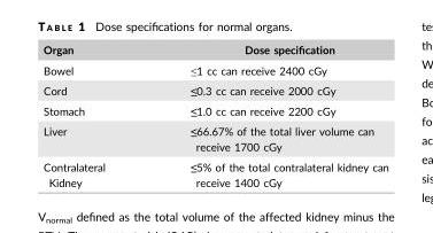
<table><thead><tr><td>Organ</td><td>Dose specification</td></tr></thead><tbody><tr><td>Bowel</td><td>≤1 cc can receive 2400 cGy</td></tr><tr><td>Cord</td><td>≤0.3 cc can receive 2000 cGy</td></tr><tr><td>Stomach</td><td>≤1.0 cc can receive 2200 cGy</td></tr><tr><td>Liver</td><td>≤66.67% of the total liver volume can receive 1700 cGy</td></tr><tr><td>Contralateral Kidney</td><td>≤5% of the total contralateral kidney can receive 1400 cGy</td></tr></tbody></table>